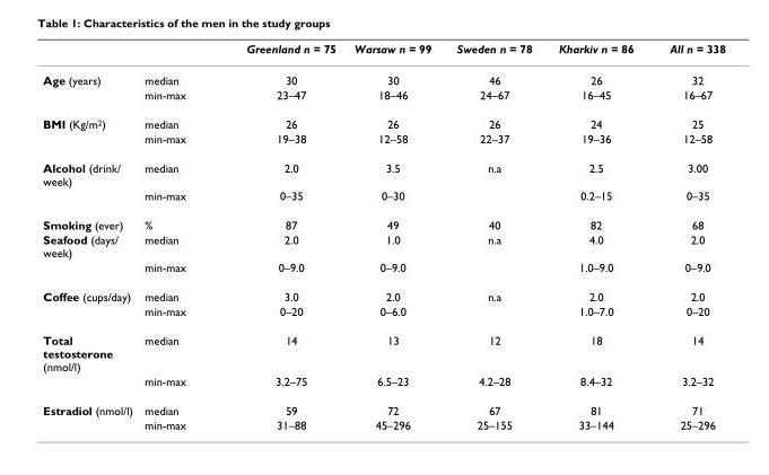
<table><thead><tr><td></td><td></td><td>Greenland n = 75</td><td>Warsaw n = 99</td><td>Sweden n = 78</td><td>Kharkiv n = 86</td><td>All n = 338</td></tr></thead><tbody><tr><td rowspan="2">Age (years)</td><td>median</td><td>30</td><td>30</td><td>46</td><td>26</td><td>32</td></tr><tr><td>min-max</td><td>23–47</td><td>18–46</td><td>24–67</td><td>16–45</td><td>16–67</td></tr><tr><td rowspan="2">BMI (Kg/m<sup>2</sup>)</td><td>median</td><td>26</td><td>26</td><td>26</td><td>24</td><td>25</td></tr><tr><td>min-max</td><td>19–38</td><td>12–58</td><td>22–37</td><td>19–36</td><td>12–58</td></tr><tr><td rowspan="2">Alcohol (drink/ week)</td><td>median</td><td>2.0</td><td>3.5</td><td>n.a</td><td>2.5</td><td>3.00</td></tr><tr><td>min-max</td><td>0–35</td><td>0–30</td><td></td><td>0.2–15</td><td>0–35</td></tr><tr><td>Smoking (ever)</td><td>%</td><td>87</td><td>49</td><td>40</td><td>82</td><td>68</td></tr><tr><td rowspan="2">Seafood (days/ week)</td><td>median</td><td>2.0</td><td>1.0</td><td>n.a</td><td>4.0</td><td>2.0</td></tr><tr><td>min-max</td><td>0–9.0</td><td>0–9.0</td><td></td><td>1.0–9.0</td><td>0–9.0</td></tr><tr><td rowspan="2">Coffee (cups/day)</td><td>median</td><td>3.0</td><td>2.0</td><td>n.a</td><td>2.0</td><td>2.0</td></tr><tr><td>min-max</td><td>0–20</td><td>0–6.0</td><td></td><td>1.0–7.0</td><td>0–20</td></tr><tr><td rowspan="2">Total testosterone (nmol/l)</td><td>median</td><td>14</td><td>13</td><td>12</td><td>18</td><td>14</td></tr><tr><td>min-max</td><td>3.2–75</td><td>6.5–23</td><td>4.2–28</td><td>8.4–32</td><td>3.2–32</td></tr><tr><td rowspan="2">Estradiol (nmol/l)</td><td>median</td><td>59</td><td>72</td><td>67</td><td>81</td><td>71</td></tr><tr><td>min-max</td><td>31–88</td><td>45–296</td><td>25–155</td><td>33–144</td><td>25–296</td></tr></tbody></table>